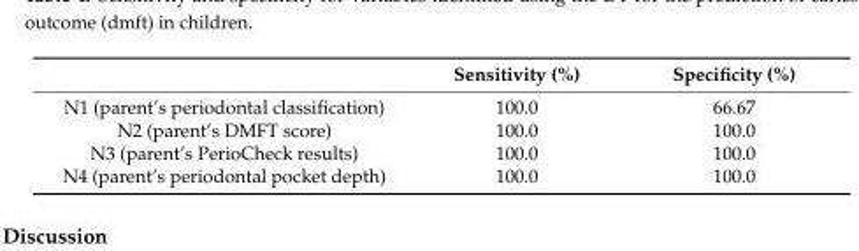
<table><thead><tr><td></td><td>Sensitivity (%)</td><td>Specificity (%)</td></tr></thead><tbody><tr><td>N1 (parent’s periodontal classification)</td><td>100.0</td><td>66.67</td></tr><tr><td>N2 (parent’s DMFT score)</td><td>100.0</td><td>100.0</td></tr><tr><td>N3 (parent’s PerioCheck results)</td><td>100.0</td><td>100.0</td></tr><tr><td>N4 (parent’s periodontal pocket depth)</td><td>100.0</td><td>100.0</td></tr></tbody></table>